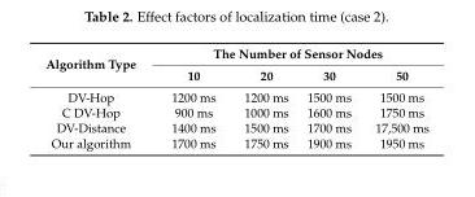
<table><thead><tr><td rowspan="2">Algorithm Type</td><td colspan="4">The Number of Sensor Nodes</td></tr><tr><td>10</td><td>20</td><td>30</td><td>50</td></tr></thead><tbody><tr><td>DV-Hop</td><td>1200 ms</td><td>1200 ms</td><td>1500 ms</td><td>1500 ms</td></tr><tr><td>C DV-Hop</td><td>900 ms</td><td>1000 ms</td><td>1600 ms</td><td>1750 ms</td></tr><tr><td>DV-Distance</td><td>1400 ms</td><td>1500 ms</td><td>1700 ms</td><td>17,500 ms</td></tr><tr><td>Our algorithm</td><td>1700 ms</td><td>1750 ms</td><td>1900 ms</td><td>1950 ms</td></tr></tbody></table>